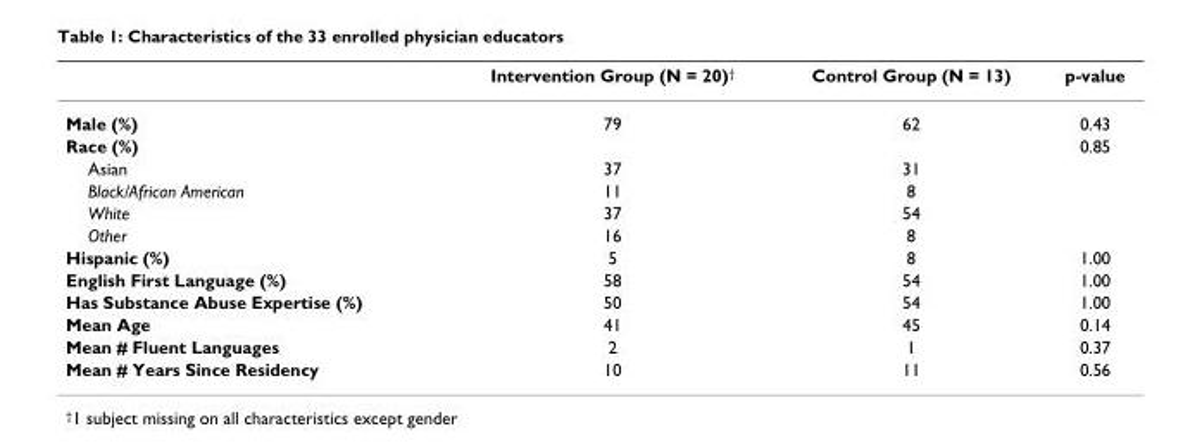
<table><thead><tr><td></td><td>Intervention Group (N = 20)<sup>†</sup></td><td>Control Group (N = 13)</td><td>p-value</td></tr></thead><tbody><tr><td>Male (%)</td><td>79</td><td>62</td><td>0.43</td></tr><tr><td>Race (%)</td><td></td><td></td><td>0.85</td></tr><tr><td>Asian</td><td>37</td><td>31</td><td></td></tr><tr><td>Black/African American</td><td>11</td><td>8</td><td></td></tr><tr><td>White</td><td>37</td><td>54</td><td></td></tr><tr><td>Other</td><td>16</td><td>8</td><td></td></tr><tr><td>Hispanic (%)</td><td>5</td><td>8</td><td>1.00</td></tr><tr><td>English First Language (%)</td><td>58</td><td>54</td><td>1.00</td></tr><tr><td>Has Substance Abuse Expertise (%)</td><td>50</td><td>54</td><td>1.00</td></tr><tr><td>Mean Age</td><td>41</td><td>45</td><td>0.14</td></tr><tr><td>Mean # Fluent Languages</td><td>2</td><td>1</td><td>0.37</td></tr><tr><td>Mean # Years Since Residency</td><td>10</td><td>11</td><td>0.56</td></tr></tbody></table>